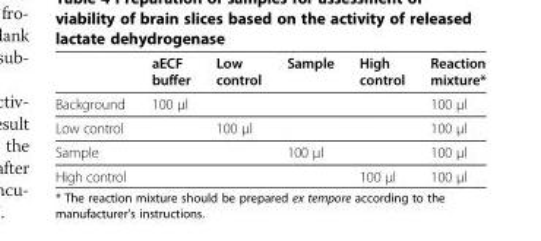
<table><thead><tr><td></td><td>aECF buffer</td><td>Low control</td><td>Sample</td><td>High control</td><td>Reaction mixture*</td></tr></thead><tbody><tr><td>Background</td><td>100 μl</td><td></td><td></td><td></td><td>100 μl</td></tr><tr><td>Low control</td><td></td><td>100 μl</td><td></td><td></td><td>100 μl</td></tr><tr><td>Sample</td><td></td><td></td><td>100 μl</td><td></td><td>100 μl</td></tr><tr><td>High control</td><td></td><td></td><td></td><td>100 μl</td><td>100 μl</td></tr></tbody></table>